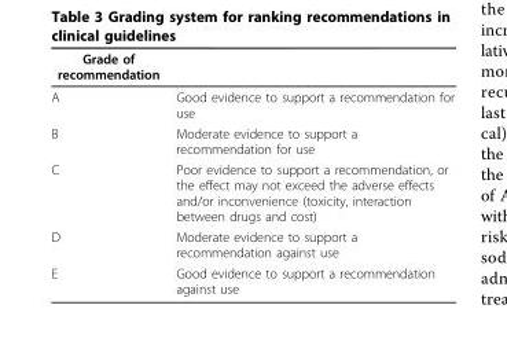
<table><thead><tr><td>Grade of recommendation</td><td></td></tr></thead><tbody><tr><td>A</td><td>Good evidence to support a recommendation for use</td></tr><tr><td>B</td><td>Moderate evidence to support a recommendation for use</td></tr><tr><td>C</td><td>Poor evidence to support a recommendation, or the effect may not exceed the adverse effects and/or inconvenience (toxicity, interaction between drugs and cost)</td></tr><tr><td>D</td><td>Moderate evidence to support a recommendation against use</td></tr><tr><td>E</td><td>Good evidence to support a recommendation against use</td></tr></tbody></table>